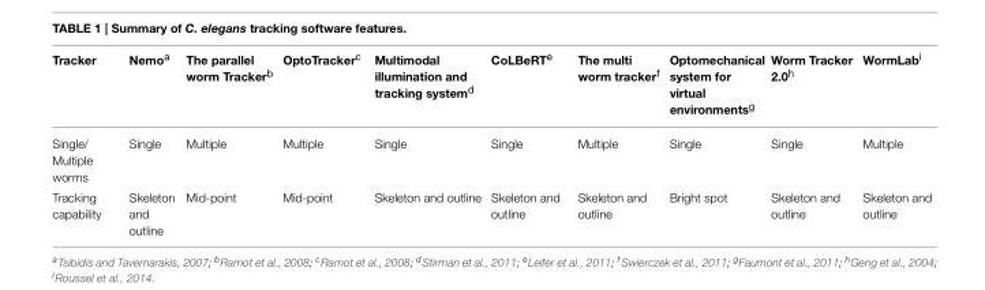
<table><thead><tr><td>Tracker</td><td>Nemo<sup>a</sup></td><td>The parallel worm Tracker<sup>b</sup></td><td>OptoTracker<sup>c</sup></td><td>Multimodal illumination and tracking system<sup>d</sup></td><td>CoLBeRT<sup>e</sup></td><td>The multi worm tracker<sup>f</sup></td><td>Optomechanical system for virtual environments<sup>g</sup></td><td>Worm Tracker 2.0<sup>h</sup></td><td>WormLab<sup>i</sup></td></tr></thead><tbody><tr><td>Single/ Multiple worms</td><td>Single</td><td>Multiple</td><td>Multiple</td><td>Single</td><td>Single</td><td>Multiple</td><td>Single</td><td>Single</td><td>Multiple</td></tr><tr><td>Tracking capability</td><td>Skeleton and outline</td><td>Mid-point</td><td>Mid-point</td><td>Skeleton and outline</td><td>Skeleton and outline</td><td>Skeleton and outline</td><td>Bright spot</td><td>Skeleton and outline</td><td>Skeleton and outline</td></tr></tbody></table>